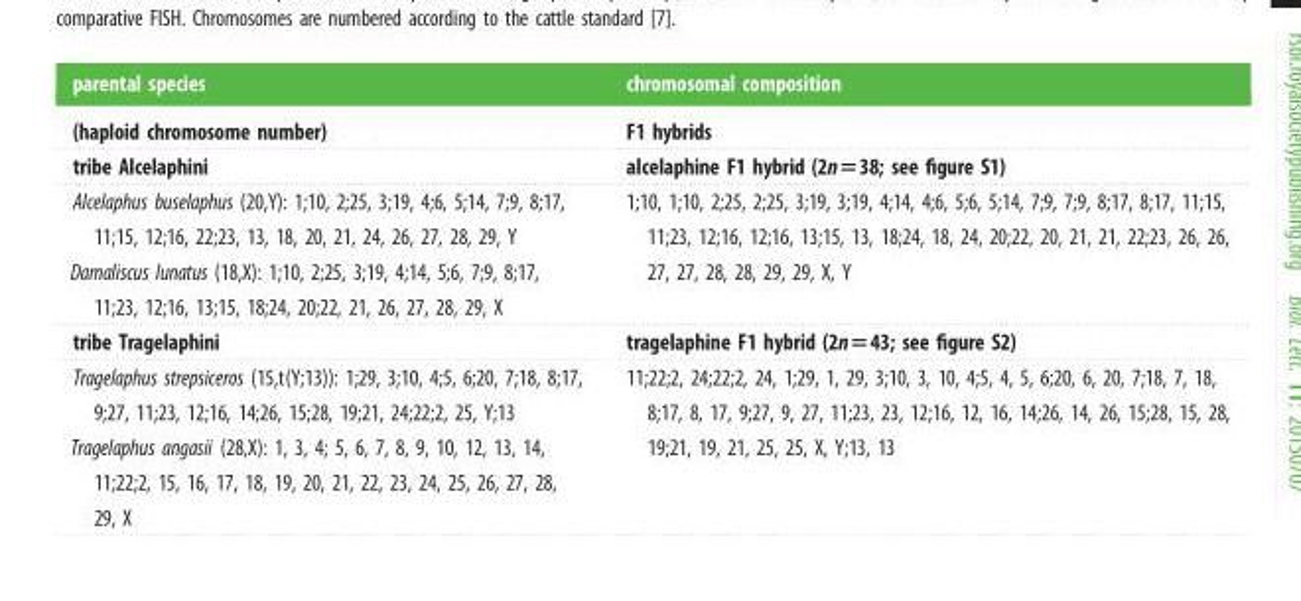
<table><thead><tr><td>parental species</td><td>chromosomal composition</td></tr></thead><tbody><tr><td>(haploid chromosome number)</td><td>F1 hybrids</td></tr><tr><td>tribe Alcelaphini</td><td>alcelaphine F1 hybrid (2n=38; see figure S1)</td></tr><tr><td>Alcelaphus buselaphus (20,Y): 1;10, 2;25, 3;19, 4;6, 5;14, 7;9, 8;17, 11;15, 12;16, 22;23, 13, 18, 20, 21, 24, 26, 27, 28, 29, Y Damaliscus lunatus (18,X): 1;10, 2;25, 3;19, 4;14, 5;6, 7;9, 8;17, 11;23, 12;16, 13;15, 18;24, 20;22, 21, 26, 27, 28, 29, X</td><td>1;10, 1;10, 2;25, 2;25, 3;19, 3;19, 4;14, 4;6, 5;6, 5;14, 7;9, 7;9, 8;17, 8;17, 11;15, 11;23, 12;16, 12;16, 13;15, 13, 18;24, 18, 24, 20;22, 20, 21, 21, 22;23, 26, 26, 27, 27, 28, 28, 29, 29, X, Y</td></tr><tr><td>tribe Tragelaphini</td><td>tragelaphine F1 hybrid (2n=43; see figure S2)</td></tr><tr><td>Tragelaphus strepsiceros (15,t(Y;13)): 1;29, 3;10, 4;5, 6;20, 7;18, 8;17, 9;27, 11;23, 12;16, 14;26, 15;28, 19;21, 24;22;2, 25, Y;13 Tragelaphus angasii (28,X): 1, 3, 4; 5, 6, 7, 8, 9, 10, 12, 13, 14, 11;22;2, 15, 16, 17, 18, 19, 20, 21, 22, 23, 24, 25, 26, 27, 28, 29, X</td><td>11;22;2, 24;22;2, 24, 1;29, 1, 29, 3;10, 3, 10, 4;5, 4, 5, 6;20, 6, 20, 7;18, 7, 18, 8;17, 8, 17, 9;27, 9, 27, 11;23, 23, 12;16, 12, 16, 14;26, 14, 26, 15;28, 15, 28, 19;21, 19, 21, 25, 25, X, Y;13, 13</td></tr></tbody></table>